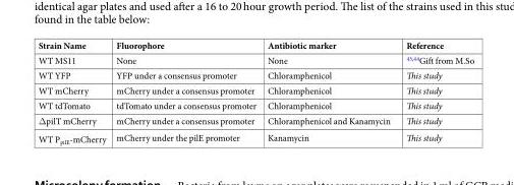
<table><tbody><tr><td>Strain Name</td><td>Fluorophore</td><td>Antibiotic marker</td><td>Reference</td></tr><tr><td>WT MS11</td><td>None</td><td>None</td><td><sup>43,44</sup>Gift from M.So</td></tr><tr><td>WT YFP</td><td>YFP under a consensus promoter</td><td>Chloramphenicol</td><td>This study</td></tr><tr><td>WT mCherry</td><td>mCherry under a consensus promoter</td><td>Chloramphenicol</td><td>This study</td></tr><tr><td>WT tdTomato</td><td>tdTomato under a consensus promoter</td><td>Chloramphenicol</td><td>This study</td></tr><tr><td>ΔpilT mCherry</td><td>mCherry under a consensus promoter</td><td>Chloramphenicol and Kanamycin</td><td>This study</td></tr><tr><td>WT P<sub>pilE</sub>-mCherry</td><td>mCherry under the pilE promoter</td><td>Kanamycin</td><td>This study</td></tr></tbody></table>